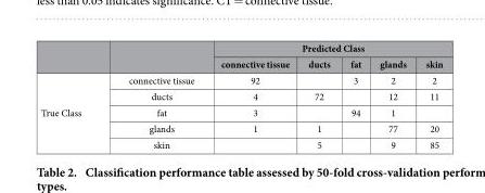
<table><thead><tr><td rowspan="2"></td><td rowspan="2"></td><td colspan="5">Predicted Class</td></tr><tr><td>connective tissue</td><td>ducts</td><td>fat</td><td>glands</td><td>skin</td></tr></thead><tbody><tr><td rowspan="5">True Class</td><td>connective tissue</td><td>92</td><td></td><td>3</td><td>2</td><td>2</td></tr><tr><td>ducts</td><td>4</td><td>72</td><td></td><td>12</td><td>11</td></tr><tr><td>fat</td><td>3</td><td></td><td>94</td><td>1</td><td></td></tr><tr><td>glands</td><td>1</td><td>1</td><td></td><td>77</td><td>20</td></tr><tr><td>skin</td><td></td><td>5</td><td></td><td>9</td><td>85</td></tr></tbody></table>